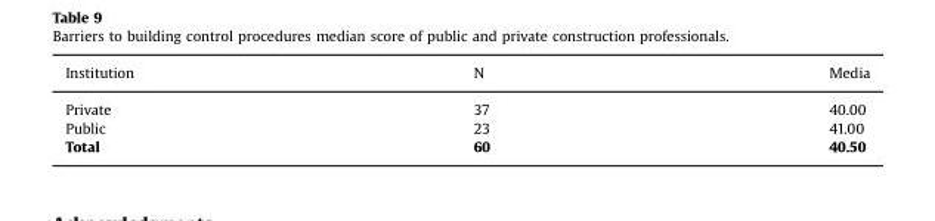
<table><thead><tr><td>Institution</td><td>N</td><td>Media</td></tr></thead><tbody><tr><td>Private</td><td>37</td><td>40.00</td></tr><tr><td>Public</td><td>23</td><td>41.00</td></tr><tr><td>Total</td><td>60</td><td>40.50</td></tr></tbody></table>